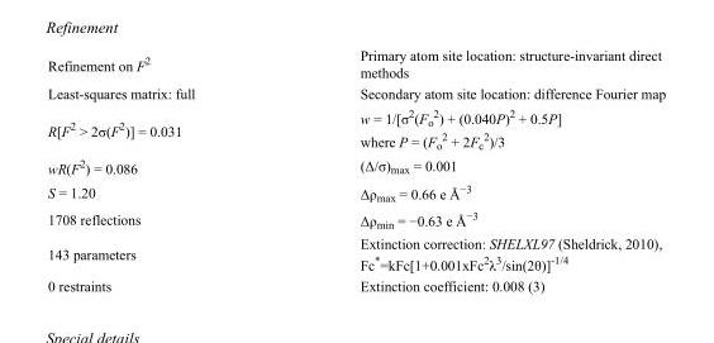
<table><tbody><tr><td>Refinement on F<sup>2</sup></td><td>Primary atom site location: structure-invariant direct methods</td></tr><tr><td>Least-squares matrix: full</td><td>Secondary atom site location: difference Fourier map</td></tr><tr><td>R[F<sup>2</sup> &gt; 2σ(F<sup>2</sup>)] = 0.031</td><td>w = 1/[σ<sup>2</sup>(F<sub>o</sub> <sup>2</sup>) + (0.040P)<sup>2</sup> + 0.5P] where P = (F<sub>o</sub> <sup>2</sup> + 2F<sub>c</sub> <sup>2</sup>)/3</td></tr><tr><td>wR(F<sup>2</sup>) = 0.086</td><td>(Δ/σ)<sub>max</sub> = 0.001</td></tr><tr><td>S = 1.20</td><td>Δρ<sub>max</sub> = 0.66 e Å<sup>−3</sup></td></tr><tr><td>1708 reflections</td><td>Δρ<sub>min</sub> = −0.63 e Å<sup>−3</sup></td></tr><tr><td>143 parameters</td><td>Extinction correction: SHELXL97 (Sheldrick, 2010), Fc*=kFc[1+0.001xFc<sup>2</sup>λ<sup>3</sup>/sin(2θ)]<sup>-1/4</sup></td></tr><tr><td>0 restraints</td><td>Extinction coefficient: 0.008 (3)</td></tr></tbody></table>